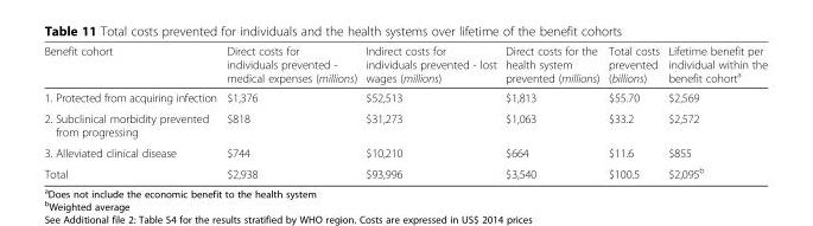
<table><thead><tr><td>Benefit cohort</td><td>Direct costs for individuals prevented - medical expenses (millions)</td><td>Indirect costs for individuals prevented - lost wages (millions)</td><td>Direct costs for the health system prevented (millions)</td><td>Total costs prevented (billions)</td><td>Lifetime benefit per individual within the benefit cohort<sup>a</sup></td></tr></thead><tbody><tr><td>1. Protected from acquiring infection</td><td>$1,376</td><td>$52,513</td><td>$1,813</td><td>$55.70</td><td>$2,569</td></tr><tr><td>2. Subclinical morbidity prevented from progressing</td><td>$818</td><td>$31,273</td><td>$1,063</td><td>$33.2</td><td>$2,572</td></tr><tr><td>3. Alleviated clinical disease</td><td>$744</td><td>$10,210</td><td>$664</td><td>$11.6</td><td>$855</td></tr><tr><td>Total</td><td>$2,938</td><td>$93,996</td><td>$3,540</td><td>$100.5</td><td>$2,095<sup>b</sup></td></tr></tbody></table>